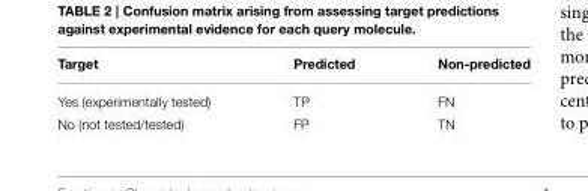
<table><thead><tr><td>Target</td><td>Predicted</td><td>Non-predicted</td></tr></thead><tbody><tr><td>Yes (experimentally tested)</td><td>TP</td><td>FN</td></tr><tr><td>No (not tested/tested)</td><td>FP</td><td>TN</td></tr></tbody></table>